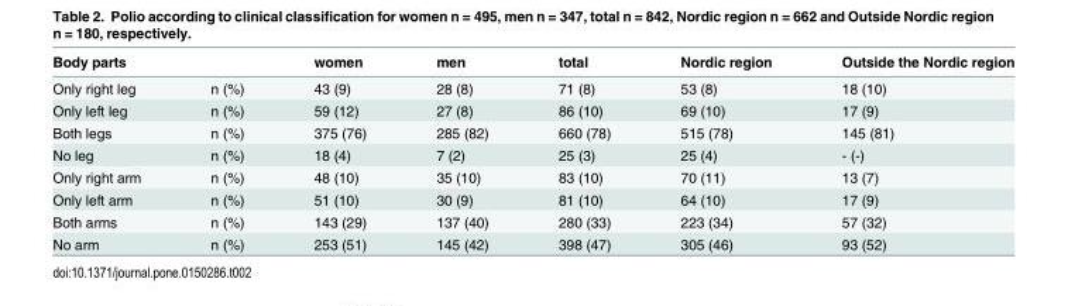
<table><thead><tr><td>Body parts</td><td></td><td>women</td><td>men</td><td>total</td><td>Nordic region</td><td>Outside the Nordic region</td></tr></thead><tbody><tr><td>Only right leg</td><td>n (%)</td><td>43 (9)</td><td>28 (8)</td><td>71 (8)</td><td>53 (8)</td><td>18 (10)</td></tr><tr><td>Only left leg</td><td>n (%)</td><td>59 (12)</td><td>27 (8)</td><td>86 (10)</td><td>69 (10)</td><td>17 (9)</td></tr><tr><td>Both legs</td><td>n (%)</td><td>375 (76)</td><td>285 (82)</td><td>660 (78)</td><td>515 (78)</td><td>145 (81)</td></tr><tr><td>No leg</td><td>n (%)</td><td>18 (4)</td><td>7 (2)</td><td>25 (3)</td><td>25 (4)</td><td>- (-)</td></tr><tr><td>Only right arm</td><td>n (%)</td><td>48 (10)</td><td>35 (10)</td><td>83 (10)</td><td>70 (11)</td><td>13 (7)</td></tr><tr><td>Only left arm</td><td>n (%)</td><td>51 (10)</td><td>30 (9)</td><td>81 (10)</td><td>64 (10)</td><td>17 (9)</td></tr><tr><td>Both arms</td><td>n (%)</td><td>143 (29)</td><td>137 (40)</td><td>280 (33)</td><td>223 (34)</td><td>57 (32)</td></tr><tr><td>No arm</td><td>n (%)</td><td>253 (51)</td><td>145 (42)</td><td>398 (47)</td><td>305 (46)</td><td>93 (52)</td></tr></tbody></table>